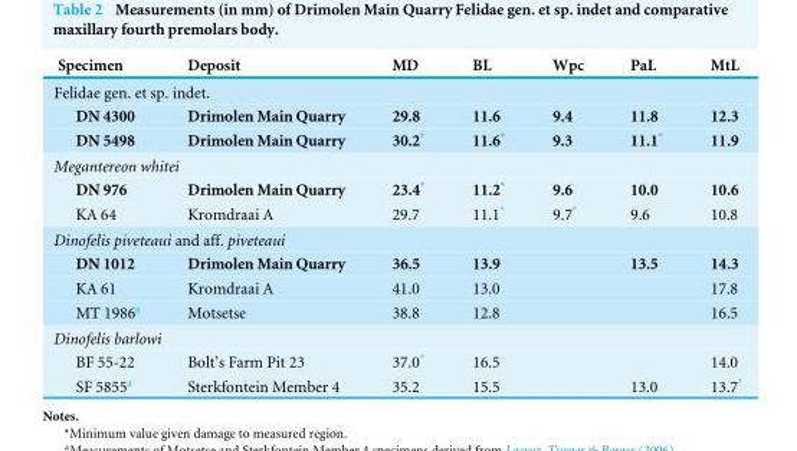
<table><thead><tr><td>Specimen</td><td>Deposit</td><td>MD</td><td>BL</td><td>Wpc</td><td>PaL</td><td>MtL</td></tr></thead><tbody><tr><td colspan="7">Felidae gen. et sp. indet.</td></tr><tr><td>DN 4300</td><td>Drimolen Main Quarry</td><td>29.8</td><td>11.6</td><td>9.4</td><td>11.8</td><td>12.3</td></tr><tr><td>DN 5498</td><td>Drimolen Main Quarry</td><td>30.2*</td><td>11.6*</td><td>9.3</td><td>11.1*</td><td>11.9</td></tr><tr><td colspan="7">Megantereon whitei</td></tr><tr><td>DN 976</td><td>Drimolen Main Quarry</td><td>23.4*</td><td>11.2*</td><td>9.6</td><td>10.0</td><td>10.6</td></tr><tr><td>KA 64</td><td>Kromdraai A</td><td>29.7</td><td>11.1*</td><td>9.7*</td><td>9.6</td><td>10.8</td></tr><tr><td colspan="7">Dinofelis piveteaui and aff. piveteaui</td></tr><tr><td>DN 1012</td><td>Drimolen Main Quarry</td><td>36.5</td><td>13.9</td><td></td><td>13.5</td><td>14.3</td></tr><tr><td>KA 61</td><td>Kromdraai A</td><td>41.0</td><td>13.0</td><td></td><td></td><td>17.8</td></tr><tr><td>MT 1986<sup>a</sup></td><td>Motsetse</td><td>38.8</td><td>12.8</td><td></td><td></td><td>16.5</td></tr><tr><td colspan="7">Dinofelis barlowi</td></tr><tr><td>BF 55-22</td><td>Bolt’s Farm Pit 23</td><td>37.0*</td><td>16.5</td><td></td><td></td><td>14.0</td></tr><tr><td>SF 5855<sup>a</sup></td><td>Sterkfontein Member 4</td><td>35.2</td><td>15.5</td><td></td><td>13.0</td><td>13.7*</td></tr></tbody></table>